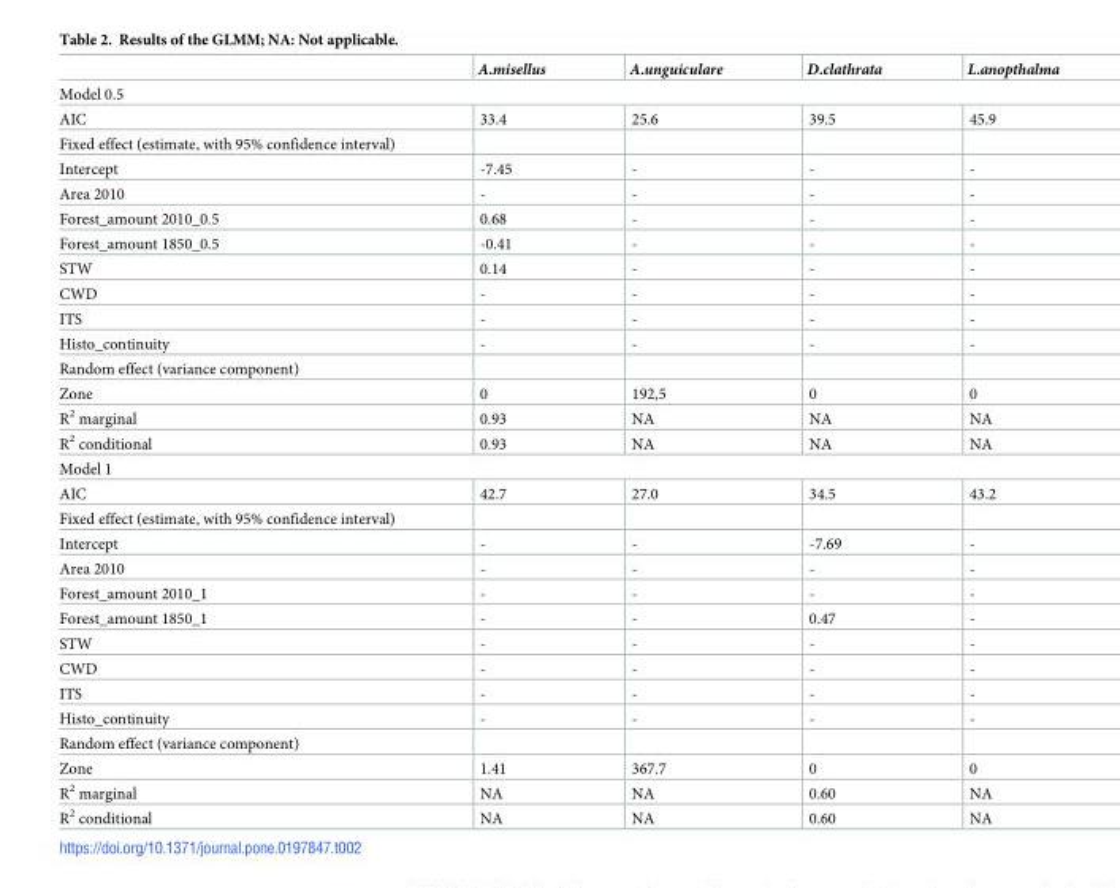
<table><thead><tr><td></td><td>A.misellus</td><td>A.unguiculare</td><td>D.clathrata</td><td>L.anopthalma</td></tr></thead><tbody><tr><td colspan="5">Model 0.5</td></tr><tr><td>AIC</td><td>33.4</td><td>25.6</td><td>39.5</td><td>45.9</td></tr><tr><td colspan="5">Fixed effect (estimate, with 95% confidence interval)</td></tr><tr><td>Intercept</td><td>-7.45</td><td>-</td><td>-</td><td>-</td></tr><tr><td>Area 2010</td><td>-</td><td>-</td><td>-</td><td>-</td></tr><tr><td>Forest_amount 2010_0.5</td><td>0.68</td><td>-</td><td>-</td><td>-</td></tr><tr><td>Forest_amount 1850_0.5</td><td>-0.41</td><td>-</td><td>-</td><td>-</td></tr><tr><td>STW</td><td>0.14</td><td>-</td><td>-</td><td>-</td></tr><tr><td>CWD</td><td>-</td><td>-</td><td>-</td><td>-</td></tr><tr><td>ITS</td><td>-</td><td>-</td><td>-</td><td>-</td></tr><tr><td>Histo_continuity</td><td>-</td><td>-</td><td>-</td><td>-</td></tr><tr><td colspan="5">Random effect (variance component)</td></tr><tr><td>Zone</td><td>0</td><td>192,5</td><td>0</td><td>0</td></tr><tr><td>R<sup>2</sup> marginal</td><td>0.93</td><td>NA</td><td>NA</td><td>NA</td></tr><tr><td>R<sup>2</sup> conditional</td><td>0.93</td><td>NA</td><td>NA</td><td>NA</td></tr><tr><td colspan="5">Model 1</td></tr><tr><td>AIC</td><td>42.7</td><td>27.0</td><td>34.5</td><td>43.2</td></tr><tr><td colspan="5">Fixed effect (estimate, with 95% confidence interval)</td></tr><tr><td>Intercept</td><td>-</td><td>-</td><td>-7.69</td><td>-</td></tr><tr><td>Area 2010</td><td>-</td><td>-</td><td>-</td><td>-</td></tr><tr><td>Forest_amount 2010_1</td><td>-</td><td>-</td><td>-</td><td>-</td></tr><tr><td>Forest_amount 1850_1</td><td>-</td><td>-</td><td>0.47</td><td>-</td></tr><tr><td>STW</td><td>-</td><td>-</td><td>-</td><td>-</td></tr><tr><td>CWD</td><td>-</td><td>-</td><td>-</td><td>-</td></tr><tr><td>ITS</td><td>-</td><td>-</td><td>-</td><td>-</td></tr><tr><td>Histo_continuity</td><td>-</td><td>-</td><td>-</td><td>-</td></tr><tr><td colspan="5">Random effect (variance component)</td></tr><tr><td>Zone</td><td>1.41</td><td>367.7</td><td>0</td><td>0</td></tr><tr><td>R<sup>2</sup> marginal</td><td>NA</td><td>NA</td><td>0.60</td><td>NA</td></tr><tr><td>R<sup>2</sup> conditional</td><td>NA</td><td>NA</td><td>0.60</td><td>NA</td></tr></tbody></table>